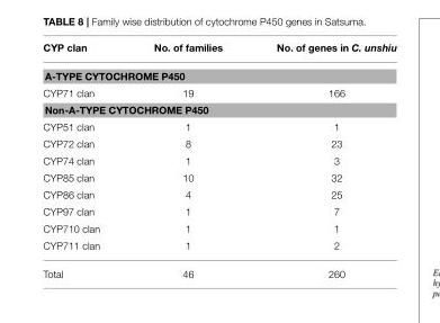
<table><thead><tr><td>CYP clan</td><td>No. of families</td><td>No. of genes in C. unshiu</td></tr></thead><tbody><tr><td colspan="3">A-TYPE CYTOCHROME P450</td></tr><tr><td>CYP71 clan</td><td>19</td><td>166</td></tr><tr><td colspan="3">Non-A-TYPE CYTOCHROME P450</td></tr><tr><td>CYP51 clan</td><td>1</td><td>1</td></tr><tr><td>CYP72 clan</td><td>8</td><td>23</td></tr><tr><td>CYP74 clan</td><td>1</td><td>3</td></tr><tr><td>CYP85 clan</td><td>10</td><td>32</td></tr><tr><td>CYP86 clan</td><td>4</td><td>25</td></tr><tr><td>CYP97 clan</td><td>1</td><td>7</td></tr><tr><td>CYP710 clan</td><td>1</td><td>1</td></tr><tr><td>CYP711 clan</td><td>1</td><td>2</td></tr><tr><td>Total</td><td>46</td><td>260</td></tr></tbody></table>